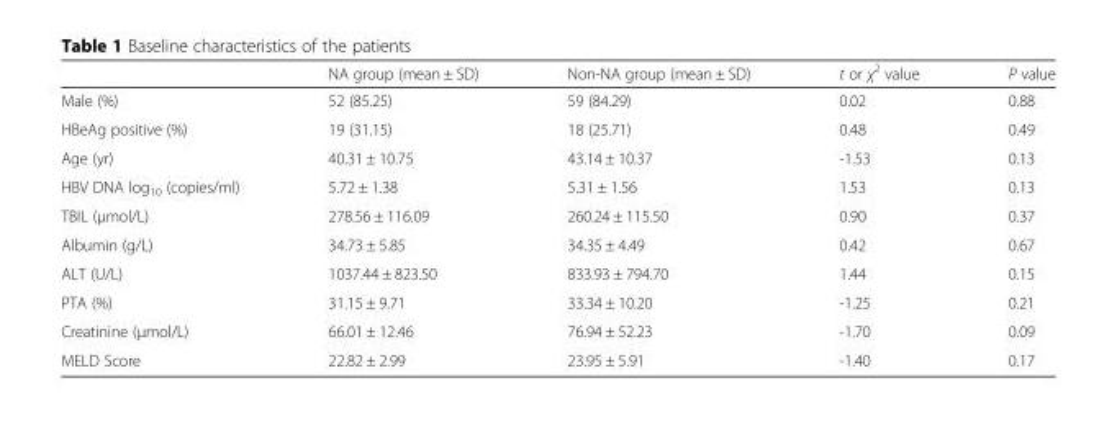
<table><thead><tr><td></td><td>NA group (mean ± SD)</td><td>Non-NA group (mean ± SD)</td><td>t or χ<sup>2</sup> value</td><td>P value</td></tr></thead><tbody><tr><td>Male (%)</td><td>52 (85.25)</td><td>59 (84.29)</td><td>0.02</td><td>0.88</td></tr><tr><td>HBeAg positive (%)</td><td>19 (31.15)</td><td>18 (25.71)</td><td>0.48</td><td>0.49</td></tr><tr><td>Age (yr)</td><td>40.31 ± 10.75</td><td>43.14 ± 10.37</td><td>-1.53</td><td>0.13</td></tr><tr><td>HBV DNA log<sub>10</sub> (copies/ml)</td><td>5.72 ± 1.38</td><td>5.31 ± 1.56</td><td>1.53</td><td>0.13</td></tr><tr><td>TBIL (μmol/L)</td><td>278.56 ± 116.09</td><td>260.24 ± 115.50</td><td>0.90</td><td>0.37</td></tr><tr><td>Albumin (g/L)</td><td>34.73 ± 5.85</td><td>34.35 ± 4.49</td><td>0.42</td><td>0.67</td></tr><tr><td>ALT (U/L)</td><td>1037.44 ± 823.50</td><td>833.93 ± 794.70</td><td>1.44</td><td>0.15</td></tr><tr><td>PTA (%)</td><td>31.15 ± 9.71</td><td>33.34 ± 10.20</td><td>-1.25</td><td>0.21</td></tr><tr><td>Creatinine (μmol/L)</td><td>66.01 ± 12.46</td><td>76.94 ± 52.23</td><td>-1.70</td><td>0.09</td></tr><tr><td>MELD Score</td><td>22.82 ± 2.99</td><td>23.95 ± 5.91</td><td>-1.40</td><td>0.17</td></tr></tbody></table>